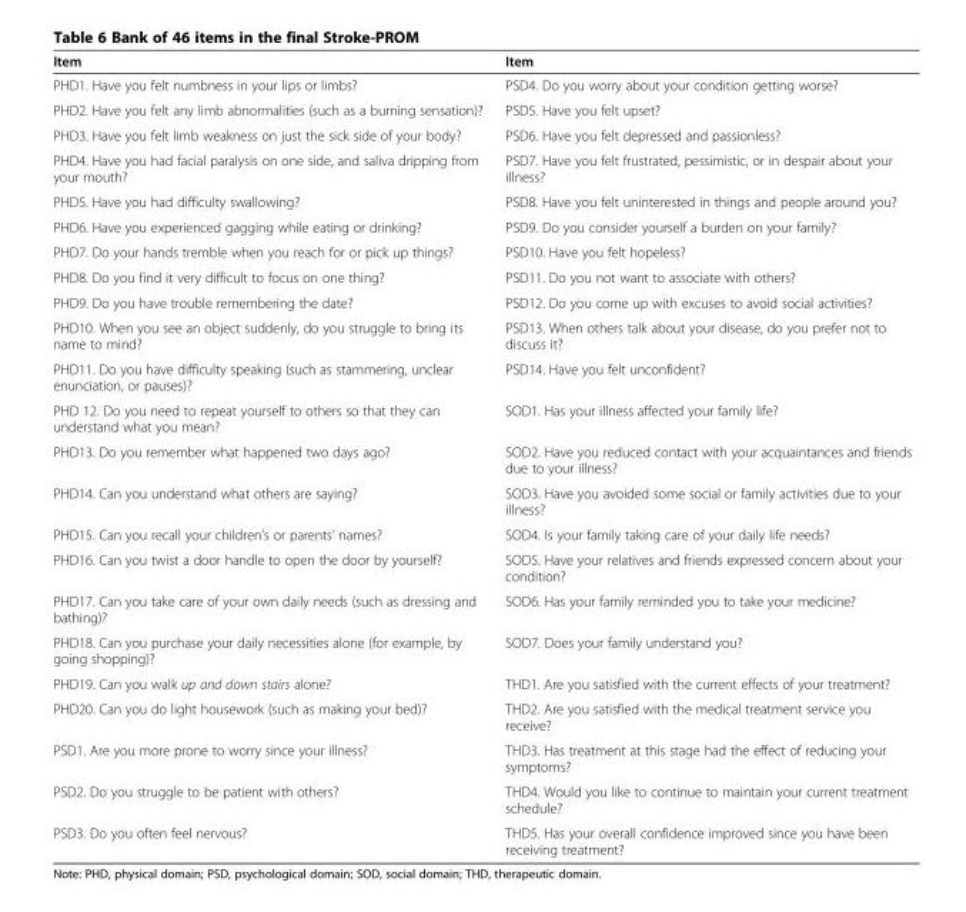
<table><thead><tr><td>Item</td><td>Item</td></tr></thead><tbody><tr><td>PHD1. Have you felt numbness in your lips or limbs?</td><td>PSD4. Do you worry about your condition getting worse?</td></tr><tr><td>PHD2. Have you felt any limb abnormalities (such as a burning sensation)?</td><td>PSD5. Have you felt upset?</td></tr><tr><td>PHD3. Have you felt limb weakness on just the sick side of your body?</td><td>PSD6. Have you felt depressed and passionless?</td></tr><tr><td>PHD4. Have you had facial paralysis on one side, and saliva dripping from your mouth?</td><td>PSD7. Have you felt frustrated, pessimistic, or in despair about your illness?</td></tr><tr><td>PHD5. Have you had difficulty swallowing?</td><td>PSD8. Have you felt uninterested in things and people around you?</td></tr><tr><td>PHD6. Have you experienced gagging while eating or drinking?</td><td>PSD9. Do you consider yourself a burden on your family?</td></tr><tr><td>PHD7. Do your hands tremble when you reach for or pick up things?</td><td>PSD10. Have you felt hopeless?</td></tr><tr><td>PHD8. Do you find it very difficult to focus on one thing?</td><td>PSD11. Do you not want to associate with others?</td></tr><tr><td>PHD9. Do you have trouble remembering the date?</td><td>PSD12. Do you come up with excuses to avoid social activities?</td></tr><tr><td>PHD10. When you see an object suddenly, do you struggle to bring its name to mind?</td><td>PSD13. When others talk about your disease, do you prefer not to discuss it?</td></tr><tr><td>PHD11. Do you have difficulty speaking (such as stammering, unclear enunciation, or pauses)?</td><td>PSD14. Have you felt unconfident?</td></tr><tr><td>PHD 12. Do you need to repeat yourself to others so that they can understand what you mean?</td><td>SOD1. Has your illness affected your family life?</td></tr><tr><td>PHD13. Do you remember what happened two days ago?</td><td>SOD2. Have you reduced contact with your acquaintances and friends due to your illness?</td></tr><tr><td>PHD14. Can you understand what others are saying?</td><td>SOD3. Have you avoided some social or family activities due to your illness?</td></tr><tr><td>PHD15. Can you recall your children’s or parents’ names?</td><td>SOD4. Is your family taking care of your daily life needs?</td></tr><tr><td>PHD16. Can you twist a door handle to open the door by yourself?</td><td>SOD5. Have your relatives and friends expressed concern about your condition?</td></tr><tr><td>PHD17. Can you take care of your own daily needs (such as dressing and bathing)?</td><td>SOD6. Has your family reminded you to take your medicine?</td></tr><tr><td>PHD18. Can you purchase your daily necessities alone (for example, by going shopping)?</td><td>SOD7. Does your family understand you?</td></tr><tr><td>PHD19. Can you walk up and down stairs alone?</td><td>THD1. Are you satisfied with the current effects of your treatment?</td></tr><tr><td>PHD20. Can you do light housework (such as making your bed)?</td><td>THD2. Are you satisfied with the medical treatment service you receive?</td></tr><tr><td>PSD1. Are you more prone to worry since your illness?</td><td>THD3. Has treatment at this stage had the effect of reducing your symptoms?</td></tr><tr><td>PSD2. Do you struggle to be patient with others?</td><td>THD4. Would you like to continue to maintain your current treatment schedule?</td></tr><tr><td>PSD3. Do you often feel nervous?</td><td>THD5. Has your overall confidence improved since you have been receiving treatment?</td></tr></tbody></table>